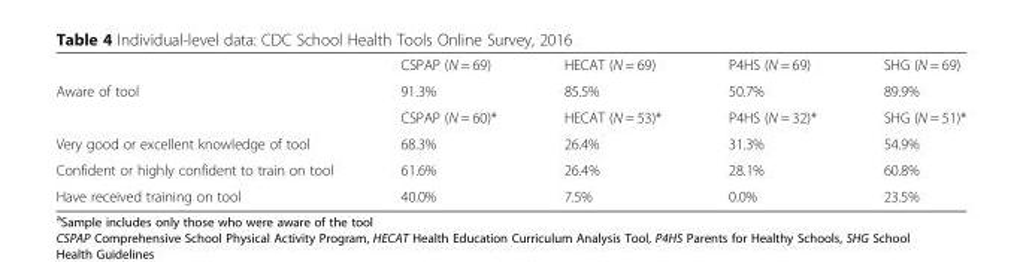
<table><thead><tr><td></td><td>CSPAP (N = 69)</td><td>HECAT (N = 69)</td><td>P4HS (N = 69)</td><td>SHG (N = 69)</td></tr></thead><tbody><tr><td rowspan="2">Aware of tool</td><td>91.3%</td><td>85.5%</td><td>50.7%</td><td>89.9%</td></tr><tr><td>CSPAP (N = 60)*</td><td>HECAT (N = 53)*</td><td>P4HS (N = 32)*</td><td>SHG (N = 51)*</td></tr><tr><td>Very good or excellent knowledge of tool</td><td>68.3%</td><td>26.4%</td><td>31.3%</td><td>54.9%</td></tr><tr><td>Confident or highly confident to train on tool</td><td>61.6%</td><td>26.4%</td><td>28.1%</td><td>60.8%</td></tr><tr><td>Have received training on tool</td><td>40.0%</td><td>7.5%</td><td>0.0%</td><td>23.5%</td></tr></tbody></table>